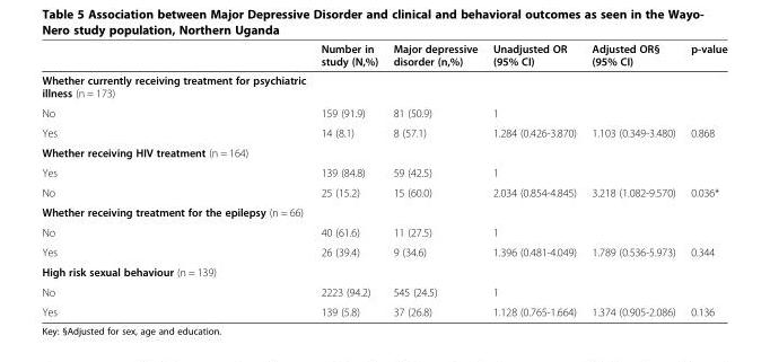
<table><thead><tr><td></td><td>Number in study (N,%)</td><td>Major depressive disorder (n,%)</td><td>Unadjusted OR (95% CI)</td><td>Adjusted OR§ (95% CI)</td><td>p-value</td></tr></thead><tbody><tr><td colspan="6">Whether currently receiving treatment for psychiatric illness (n = 173)</td></tr><tr><td>No</td><td>159 (91.9)</td><td>81 (50.9)</td><td>1</td><td></td><td></td></tr><tr><td>Yes</td><td>14 (8.1)</td><td>8 (57.1)</td><td>1.284 (0.426-3.870)</td><td>1.103 (0.349-3.480)</td><td>0.868</td></tr><tr><td colspan="6">Whether receiving HIV treatment (n = 164)</td></tr><tr><td>Yes</td><td>139 (84.8)</td><td>59 (42.5)</td><td>1</td><td></td><td></td></tr><tr><td>No</td><td>25 (15.2)</td><td>15 (60.0)</td><td>2.034 (0.854-4.845)</td><td>3.218 (1.082-9.570)</td><td>0.036*</td></tr><tr><td colspan="6">Whether receiving treatment for the epilepsy (n = 66)</td></tr><tr><td>No</td><td>40 (61.6)</td><td>11 (27.5)</td><td>1</td><td></td><td></td></tr><tr><td>Yes</td><td>26 (39.4)</td><td>9 (34.6)</td><td>1.396 (0.481-4.049)</td><td>1.789 (0.536-5.973)</td><td>0.344</td></tr><tr><td colspan="6">High risk sexual behaviour (n = 139)</td></tr><tr><td>No</td><td>2223 (94.2)</td><td>545 (24.5)</td><td>1</td><td></td><td></td></tr><tr><td>Yes</td><td>139 (5.8)</td><td>37 (26.8)</td><td>1.128 (0.765-1.664)</td><td>1.374 (0.905-2.086)</td><td>0.136</td></tr></tbody></table>